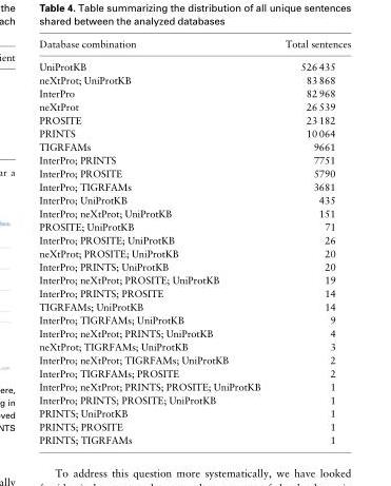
<table><thead><tr><td>Database combination</td><td>Total sentences</td></tr></thead><tbody><tr><td>UniProtKB</td><td>526 435</td></tr><tr><td>neXtProt; UniProtKB</td><td>83 868</td></tr><tr><td>InterPro</td><td>82 968</td></tr><tr><td>neXtProt</td><td>26 539</td></tr><tr><td>PROSITE</td><td>23 182</td></tr><tr><td>PRINTS</td><td>10 064</td></tr><tr><td>TIGRFAMs</td><td>9661</td></tr><tr><td>InterPro; PRINTS</td><td>7751</td></tr><tr><td>InterPro; PROSITE</td><td>5790</td></tr><tr><td>InterPro; TIGRFAMs</td><td>3681</td></tr><tr><td>InterPro; UniProtKB</td><td>435</td></tr><tr><td>InterPro; neXtProt; UniProtKB</td><td>151</td></tr><tr><td>PROSITE; UniProtKB</td><td>71</td></tr><tr><td>InterPro; PROSITE; UniProtKB</td><td>26</td></tr><tr><td>neXtProt; PROSITE; UniProtKB</td><td>20</td></tr><tr><td>InterPro; PRINTS; UniProtKB</td><td>20</td></tr><tr><td>InterPro; neXtProt; PROSITE; UniProtKB</td><td>19</td></tr><tr><td>InterPro; PRINTS; PROSITE</td><td>14</td></tr><tr><td>TIGRFAMs; UniProtKB</td><td>14</td></tr><tr><td>InterPro; TIGRFAMs; UniProtKB</td><td>9</td></tr><tr><td>InterPro; neXtProt; PRINTS; UniProtKB</td><td>4</td></tr><tr><td>neXtProt; TIGRFAMs; UniProtKB</td><td>3</td></tr><tr><td>InterPro; neXtProt; TIGRFAMs; UniProtKB</td><td>2</td></tr><tr><td>InterPro; TIGRFAMs; PROSITE</td><td>2</td></tr><tr><td>InterPro; neXtProt; PRINTS; PROSITE; UniProtKB</td><td>1</td></tr><tr><td>InterPro; PRINTS; PROSITE; UniProtKB</td><td>1</td></tr><tr><td>PRINTS; UniProtKB</td><td>1</td></tr><tr><td>PRINTS; PROSITE</td><td>1</td></tr><tr><td>PRINTS; TIGRFAMs</td><td>1</td></tr></tbody></table>